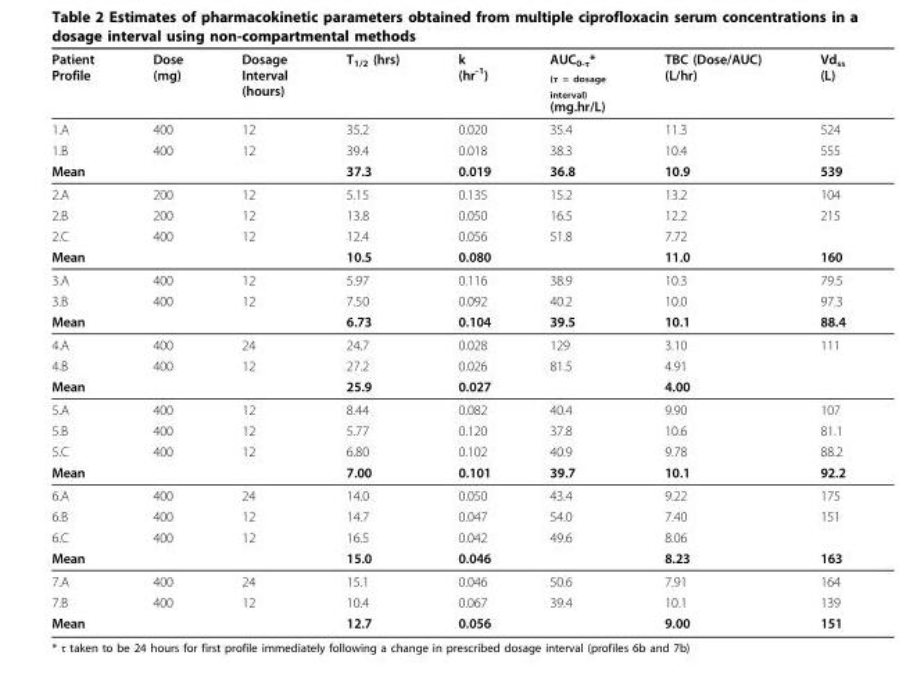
<table><thead><tr><td>Patient Profile</td><td>Dose (mg)</td><td>Dosage Interval (hours)</td><td>T<sub>1/2</sub> (hrs)</td><td>k (hr<sup>-1</sup>)</td><td>AUC<sub>0-τ</sub>* <sub>(τ = dosage interval)</sub> (mg.hr/L)</td><td>TBC (Dose/AUC) (L/hr)</td><td>Vd<sub>ss</sub> (L)</td></tr></thead><tbody><tr><td>1.A</td><td>400</td><td>12</td><td>35.2</td><td>0.020</td><td>35.4</td><td>11.3</td><td>524</td></tr><tr><td>1.B</td><td>400</td><td>12</td><td>39.4</td><td>0.018</td><td>38.3</td><td>10.4</td><td>555</td></tr><tr><td>Mean</td><td></td><td></td><td>37.3</td><td>0.019</td><td>36.8</td><td>10.9</td><td>539</td></tr><tr><td>2.A</td><td>200</td><td>12</td><td>5.15</td><td>0.135</td><td>15.2</td><td>13.2</td><td>104</td></tr><tr><td>2.B</td><td>200</td><td>12</td><td>13.8</td><td>0.050</td><td>16.5</td><td>12.2</td><td>215</td></tr><tr><td>2.C</td><td>400</td><td>12</td><td>12.4</td><td>0.056</td><td>51.8</td><td>7.72</td><td></td></tr><tr><td>Mean</td><td></td><td></td><td>10.5</td><td>0.080</td><td></td><td>11.0</td><td>160</td></tr><tr><td>3.A</td><td>400</td><td>12</td><td>5.97</td><td>0.116</td><td>38.9</td><td>10.3</td><td>79.5</td></tr><tr><td>3.B</td><td>400</td><td>12</td><td>7.50</td><td>0.092</td><td>40.2</td><td>10.0</td><td>97.3</td></tr><tr><td>Mean</td><td></td><td></td><td>6.73</td><td>0.104</td><td>39.5</td><td>10.1</td><td>88.4</td></tr><tr><td>4.A</td><td>400</td><td>24</td><td>24.7</td><td>0.028</td><td>129</td><td>3.10</td><td>111</td></tr><tr><td>4.B</td><td>400</td><td>12</td><td>27.2</td><td>0.026</td><td>81.5</td><td>4.91</td><td></td></tr><tr><td>Mean</td><td></td><td></td><td>25.9</td><td>0.027</td><td></td><td>4.00</td><td></td></tr><tr><td>5.A</td><td>400</td><td>12</td><td>8.44</td><td>0.082</td><td>40.4</td><td>9.90</td><td>107</td></tr><tr><td>5.B</td><td>400</td><td>12</td><td>5.77</td><td>0.120</td><td>37.8</td><td>10.6</td><td>81.1</td></tr><tr><td>5.C</td><td>400</td><td>12</td><td>6.80</td><td>0.102</td><td>40.9</td><td>9.78</td><td>88.2</td></tr><tr><td>Mean</td><td></td><td></td><td>7.00</td><td>0.101</td><td>39.7</td><td>10.1</td><td>92.2</td></tr><tr><td>6.A</td><td>400</td><td>24</td><td>14.0</td><td>0.050</td><td>43.4</td><td>9.22</td><td>175</td></tr><tr><td>6.B</td><td>400</td><td>12</td><td>14.7</td><td>0.047</td><td>54.0</td><td>7.40</td><td>151</td></tr><tr><td>6.C</td><td>400</td><td>12</td><td>16.5</td><td>0.042</td><td>49.6</td><td>8.06</td><td></td></tr><tr><td>Mean</td><td></td><td></td><td>15.0</td><td>0.046</td><td></td><td>8.23</td><td>163</td></tr><tr><td>7.A</td><td>400</td><td>24</td><td>15.1</td><td>0.046</td><td>50.6</td><td>7.91</td><td>164</td></tr><tr><td>7.B</td><td>400</td><td>12</td><td>10.4</td><td>0.067</td><td>39.4</td><td>10.1</td><td>139</td></tr><tr><td>Mean</td><td></td><td></td><td>12.7</td><td>0.056</td><td></td><td>9.00</td><td>151</td></tr></tbody></table>